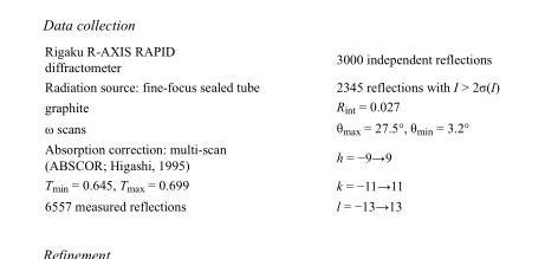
<table><tbody><tr><td>Rigaku R-AXIS RAPID diffractometer</td><td>3000 independent reflections</td></tr><tr><td>Radiation source: fine-focus sealed tube</td><td>2345 reflections with I &gt; 2σ(I)</td></tr><tr><td>graphite</td><td>R<sub>int</sub> = 0.027</td></tr><tr><td>ω scans</td><td>θ<sub>max</sub> = 27.5°, θ<sub>min</sub> = 3.2°</td></tr><tr><td>Absorption correction: multi-scan (ABSCOR; Higashi, 1995)</td><td>h = −9→9</td></tr><tr><td>T<sub>min</sub> = 0.645, T<sub>max</sub> = 0.699</td><td>k = −11→11</td></tr><tr><td>6557 measured reflections</td><td>l = −13→13</td></tr></tbody></table>